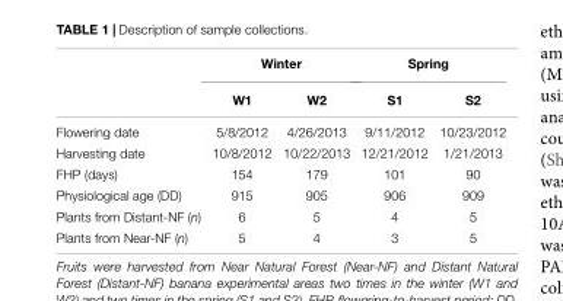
<table><thead><tr><td rowspan="2"></td><td colspan="2">Winter</td><td colspan="2">Spring</td></tr><tr><td>W1</td><td>W2</td><td>S1</td><td>S2</td></tr></thead><tbody><tr><td>Flowering date</td><td>5/8/2012</td><td>4/26/2013</td><td>9/11/2012</td><td>10/23/2012</td></tr><tr><td>Harvesting date</td><td>10/8/2012</td><td>10/22/2013</td><td>12/21/2012</td><td>1/21/2013</td></tr><tr><td>FHP (days)</td><td>154</td><td>179</td><td>101</td><td>90</td></tr><tr><td>Physiological age (DD)</td><td>915</td><td>905</td><td>906</td><td>909</td></tr><tr><td>Plants from Distant-NF (n)</td><td>6</td><td>5</td><td>4</td><td>5</td></tr><tr><td>Plants from Near-NF (n)</td><td>5</td><td>4</td><td>3</td><td>5</td></tr></tbody></table>